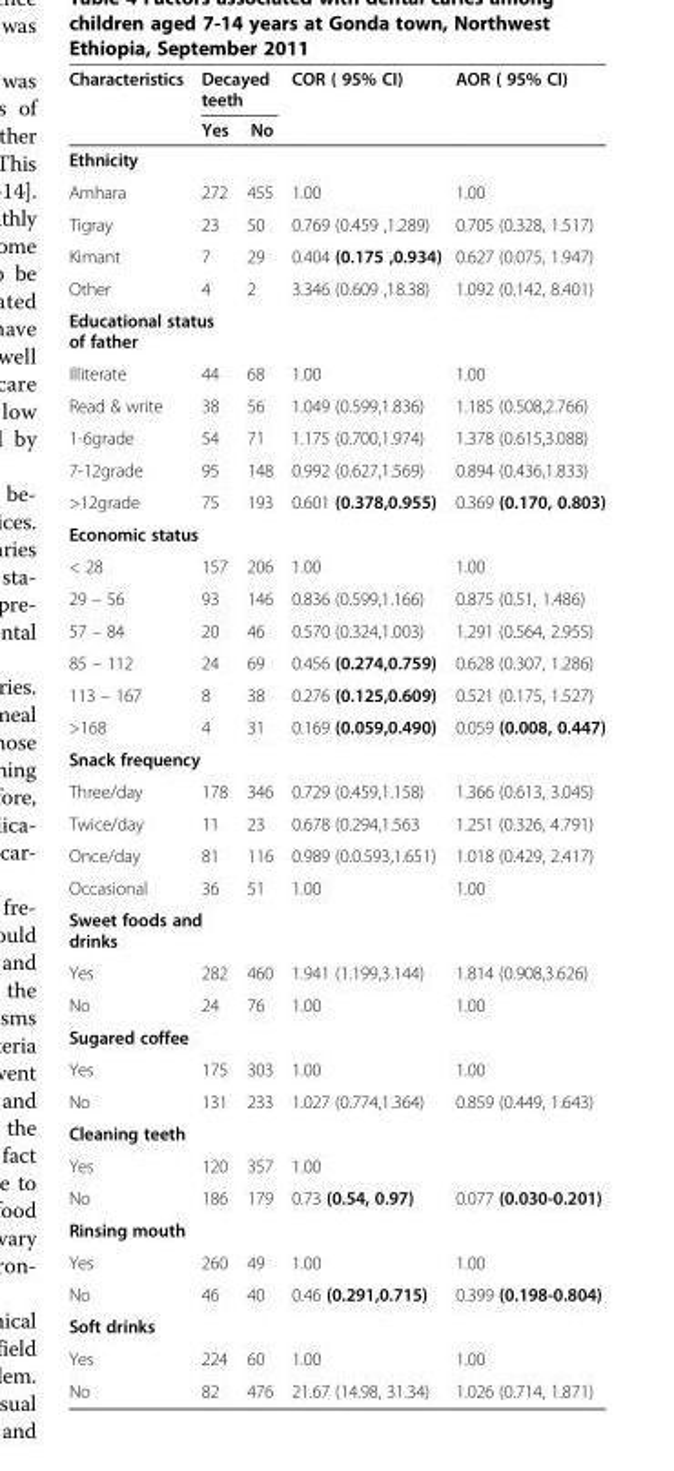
<table><thead><tr><td rowspan="2">Characteristics</td><td colspan="2">Decayed teeth</td><td rowspan="2">COR ( 95% CI)</td><td rowspan="2">AOR ( 95% CI)</td></tr><tr><td>Yes</td><td>No</td></tr></thead><tbody><tr><td colspan="5">Ethnicity</td></tr><tr><td>Amhara</td><td>272</td><td>455</td><td>1.00</td><td>1.00</td></tr><tr><td>Tigray</td><td>23</td><td>50</td><td>0.769 (0.459 ,1.289)</td><td>0.705 (0.328, 1.517)</td></tr><tr><td>Kimant</td><td>7</td><td>29</td><td>0.404 (0.175 ,0.934)</td><td>0.627 (0.075, 1.947)</td></tr><tr><td>Other</td><td>4</td><td>2</td><td>3.346 (0.609 ,18.38)</td><td>1.092 (0.142, 8.401)</td></tr><tr><td colspan="5">Educational status of father</td></tr><tr><td>Illiterate</td><td>44</td><td>68</td><td>1.00</td><td>1.00</td></tr><tr><td>Read &amp; write</td><td>38</td><td>56</td><td>1.049 (0.599,1.836)</td><td>1.185 (0.508,2.766)</td></tr><tr><td>1-6grade</td><td>54</td><td>71</td><td>1.175 (0.700,1.974)</td><td>1.378 (0.615,3.088)</td></tr><tr><td>7-12grade</td><td>95</td><td>148</td><td>0.992 (0.627,1.569)</td><td>0.894 (0.436,1.833)</td></tr><tr><td>&gt;12grade</td><td>75</td><td>193</td><td>0.601 (0.378,0.955)</td><td>0.369 (0.170, 0.803)</td></tr><tr><td colspan="5">Economic status</td></tr><tr><td>&lt; 28</td><td>157</td><td>206</td><td>1.00</td><td>1.00</td></tr><tr><td>29 – 56</td><td>93</td><td>146</td><td>0.836 (0.599,1.166)</td><td>0.875 (0.51, 1.486)</td></tr><tr><td>57 – 84</td><td>20</td><td>46</td><td>0.570 (0.324,1.003)</td><td>1.291 (0.564, 2.955)</td></tr><tr><td>85 – 112</td><td>24</td><td>69</td><td>0.456 (0.274,0.759)</td><td>0.628 (0.307, 1.286)</td></tr><tr><td>113 – 167</td><td>8</td><td>38</td><td>0.276 (0.125,0.609)</td><td>0.521 (0.175, 1.527)</td></tr><tr><td>&gt;168</td><td>4</td><td>31</td><td>0.169 (0.059,0.490)</td><td>0.059 (0.008, 0.447)</td></tr><tr><td colspan="5">Snack frequency</td></tr><tr><td>Three/day</td><td>178</td><td>346</td><td>0.729 (0.459,1.158)</td><td>1.366 (0.613, 3.045)</td></tr><tr><td>Twice/day</td><td>11</td><td>23</td><td>0.678 (0.294,1.563</td><td>1.251 (0.326, 4.791)</td></tr><tr><td>Once/day</td><td>81</td><td>116</td><td>0.989 (0.0.593,1.651)</td><td>1.018 (0.429, 2.417)</td></tr><tr><td>Occasional</td><td>36</td><td>51</td><td>1.00</td><td>1.00</td></tr><tr><td colspan="5">Sweet foods and drinks</td></tr><tr><td>Yes</td><td>282</td><td>460</td><td>1.941 (1.199,3.144)</td><td>1.814 (0.908,3.626)</td></tr><tr><td>No</td><td>24</td><td>76</td><td>1.00</td><td>1.00</td></tr><tr><td colspan="5">Sugared coffee</td></tr><tr><td>Yes</td><td>175</td><td>303</td><td>1.00</td><td>1.00</td></tr><tr><td>No</td><td>131</td><td>233</td><td>1.027 (0.774,1.364)</td><td>0.859 (0.449, 1.643)</td></tr><tr><td colspan="5">Cleaning teeth</td></tr><tr><td>Yes</td><td>120</td><td>357</td><td>1.00</td><td></td></tr><tr><td>No</td><td>186</td><td>179</td><td>0.73 (0.54, 0.97)</td><td>0.077 (0.030-0.201)</td></tr><tr><td colspan="5">Rinsing mouth</td></tr><tr><td>Yes</td><td>260</td><td>49</td><td>1.00</td><td>1.00</td></tr><tr><td>No</td><td>46</td><td>40</td><td>0.46 (0.291,0.715)</td><td>0.399 (0.198-0.804)</td></tr><tr><td colspan="5">Soft drinks</td></tr><tr><td>Yes</td><td>224</td><td>60</td><td>1.00</td><td>1.00</td></tr><tr><td>No</td><td>82</td><td>476</td><td>21.67 (14.98, 31.34)</td><td>1.026 (0.714, 1.871)</td></tr></tbody></table>